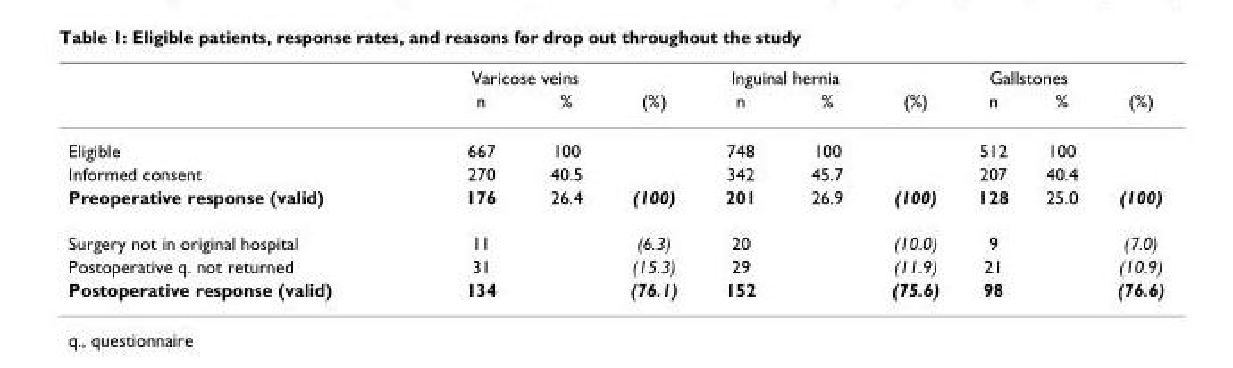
<table><thead><tr><td rowspan="2"></td><td colspan="2">Varicose veins</td><td rowspan="2">(%)</td><td colspan="2">Inguinal hernia</td><td rowspan="2">(%)</td><td colspan="2">Gallstones</td><td rowspan="2">(%)</td></tr><tr><td>n</td><td>%</td><td>n</td><td>%</td><td>n</td><td>%</td></tr></thead><tbody><tr><td>Eligible</td><td>667</td><td>100</td><td></td><td>748</td><td>100</td><td></td><td>512</td><td>100</td><td></td></tr><tr><td>Informed consent</td><td>270</td><td>40.5</td><td></td><td>342</td><td>45.7</td><td></td><td>207</td><td>40.4</td><td></td></tr><tr><td>Preoperative response (valid)</td><td>176</td><td>26.4</td><td>(100)</td><td>201</td><td>26.9</td><td>(100)</td><td>128</td><td>25.0</td><td>(100)</td></tr><tr><td>Surgery not in original hospital</td><td>11</td><td></td><td>(6.3)</td><td>20</td><td></td><td>(10.0)</td><td>9</td><td></td><td>(7.0)</td></tr><tr><td>Postoperative q. not returned</td><td>31</td><td></td><td>(15.3)</td><td>29</td><td></td><td>(11.9)</td><td>21</td><td></td><td>(10.9)</td></tr><tr><td>Postoperative response (valid)</td><td>134</td><td></td><td>(76.1)</td><td>152</td><td></td><td>(75.6)</td><td>98</td><td></td><td>(76.6)</td></tr></tbody></table>